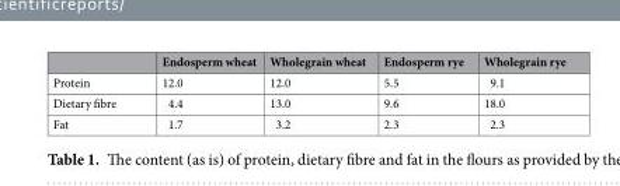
<table><thead><tr><td></td><td>Endosperm wheat</td><td>Wholegrain wheat</td><td>Endosperm rye</td><td>Wholegrain rye</td></tr></thead><tbody><tr><td>Protein</td><td>12.0</td><td>12.0</td><td>5.5</td><td>9.1</td></tr><tr><td>Dietary fibre</td><td>4.4</td><td>13.0</td><td>9.6</td><td>18.0</td></tr><tr><td>Fat</td><td>1.7</td><td>3.2</td><td>2.3</td><td>2.3</td></tr></tbody></table>